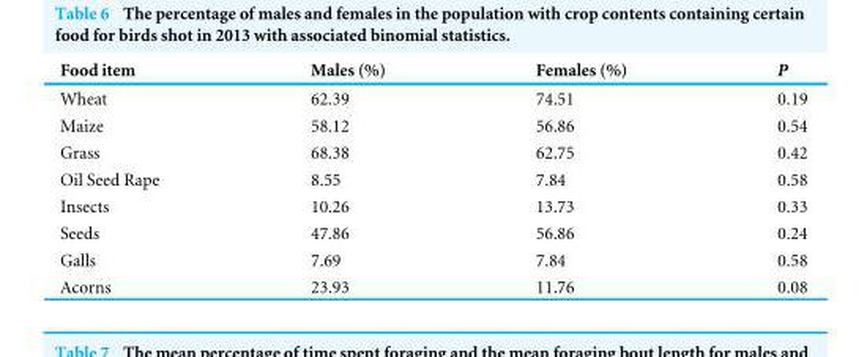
<table><thead><tr><td>Food item</td><td>Males (%)</td><td>Females (%)</td><td>P</td></tr></thead><tbody><tr><td>Wheat</td><td>62.39</td><td>74.51</td><td>0.19</td></tr><tr><td>Maize</td><td>58.12</td><td>56.86</td><td>0.54</td></tr><tr><td>Grass</td><td>68.38</td><td>62.75</td><td>0.42</td></tr><tr><td>Oil Seed Rape</td><td>8.55</td><td>7.84</td><td>0.58</td></tr><tr><td>Insects</td><td>10.26</td><td>13.73</td><td>0.33</td></tr><tr><td>Seeds</td><td>47.86</td><td>56.86</td><td>0.24</td></tr><tr><td>Galls</td><td>7.69</td><td>7.84</td><td>0.58</td></tr><tr><td>Acorns</td><td>23.93</td><td>11.76</td><td>0.08</td></tr></tbody></table>